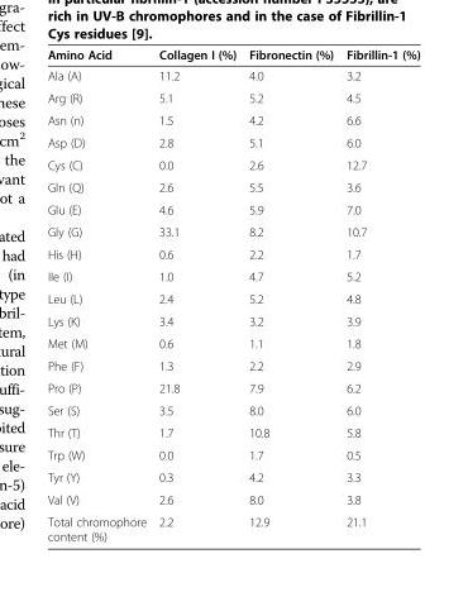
<table><thead><tr><td>Amino Acid</td><td>Collagen I (%)</td><td>Fibronectin (%)</td><td>Fibrillin-1 (%)</td></tr></thead><tbody><tr><td>Ala (A)</td><td>11.2</td><td>4.0</td><td>3.2</td></tr><tr><td>Arg (R)</td><td>5.1</td><td>5.2</td><td>4.5</td></tr><tr><td>Asn (n)</td><td>1.5</td><td>4.2</td><td>6.6</td></tr><tr><td>Asp (D)</td><td>2.8</td><td>5.1</td><td>6.0</td></tr><tr><td>Cys (C)</td><td>0.0</td><td>2.6</td><td>12.7</td></tr><tr><td>Gln (Q)</td><td>2.6</td><td>5.5</td><td>3.6</td></tr><tr><td>Glu (E)</td><td>4.6</td><td>5.9</td><td>7.0</td></tr><tr><td>Gly (G)</td><td>33.1</td><td>8.2</td><td>10.7</td></tr><tr><td>His (H)</td><td>0.6</td><td>2.2</td><td>1.7</td></tr><tr><td>IIe (I)</td><td>1.0</td><td>4.7</td><td>5.2</td></tr><tr><td>Leu (L)</td><td>2.4</td><td>5.2</td><td>4.8</td></tr><tr><td>Lys (K)</td><td>3.4</td><td>3.2</td><td>3.9</td></tr><tr><td>Met (M)</td><td>0.6</td><td>1.1</td><td>1.8</td></tr><tr><td>Phe (F)</td><td>1.3</td><td>2.2</td><td>2.9</td></tr><tr><td>Pro (P)</td><td>21.8</td><td>7.9</td><td>6.2</td></tr><tr><td>Ser (S)</td><td>3.5</td><td>8.0</td><td>6.0</td></tr><tr><td>Thr (T)</td><td>1.7</td><td>10.8</td><td>5.8</td></tr><tr><td>Trp (W)</td><td>0.0</td><td>1.7</td><td>0.5</td></tr><tr><td>Tyr (Y)</td><td>0.3</td><td>4.2</td><td>3.3</td></tr><tr><td>Val (V)</td><td>2.6</td><td>8.0</td><td>3.8</td></tr><tr><td>Total chromophore content (%)</td><td>2.2</td><td>12.9</td><td>21.1</td></tr></tbody></table>